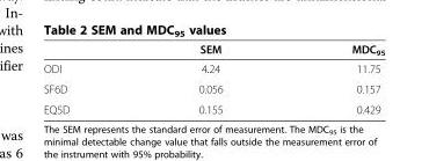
<table><thead><tr><td></td><td>SEM</td><td>MDC<sub>95</sub></td></tr></thead><tbody><tr><td>ODI</td><td>4.24</td><td>11.75</td></tr><tr><td>SF6D</td><td>0.056</td><td>0.157</td></tr><tr><td>EQ5D</td><td>0.155</td><td>0.429</td></tr></tbody></table>